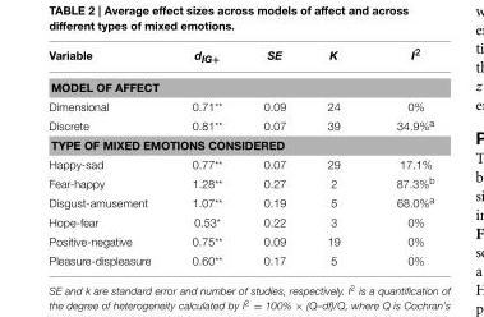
<table><thead><tr><td>Variable</td><td>d<sub>IG+</sub></td><td>SE</td><td>K</td><td>I<sup>2</sup></td></tr></thead><tbody><tr><td colspan="5">MODEL OF AFFECT</td></tr><tr><td>Dimensional</td><td>0.71**</td><td>0.09</td><td>24</td><td>0%</td></tr><tr><td>Discrete</td><td>0.81**</td><td>0.07</td><td>39</td><td>34.9%<sup>a</sup></td></tr><tr><td colspan="5">TYPE OF MIXED EMOTIONS CONSIDERED</td></tr><tr><td>Happy-sad</td><td>0.77**</td><td>0.07</td><td>29</td><td>17.1%</td></tr><tr><td>Fear-happy</td><td>1.28**</td><td>0.27</td><td>2</td><td>87.3%<sup>b</sup></td></tr><tr><td>Disgust-amusement</td><td>1.07**</td><td>0.19</td><td>5</td><td>68.0%<sup>a</sup></td></tr><tr><td>Hope-fear</td><td>0.53*</td><td>0.22</td><td>3</td><td>0%</td></tr><tr><td>Positive-negative</td><td>0.75**</td><td>0.09</td><td>19</td><td>0%</td></tr><tr><td>Pleasure-displeasure</td><td>0.60**</td><td>0.17</td><td>5</td><td>0%</td></tr></tbody></table>